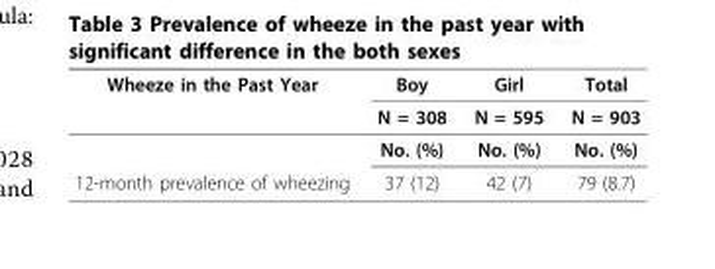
<table><thead><tr><td rowspan="2">Wheeze in the Past Year</td><td rowspan="2">Boy N = 308</td><td rowspan="2">Girl N = 595</td><td rowspan="2">Total N = 903</td></tr><tr></tr></thead><tbody><tr><td></td><td>No. (%)</td><td>No. (%)</td><td>No. (%)</td></tr><tr><td>12-month prevalence of wheezing</td><td>37 (12)</td><td>42 (7)</td><td>79 (8.7)</td></tr></tbody></table>